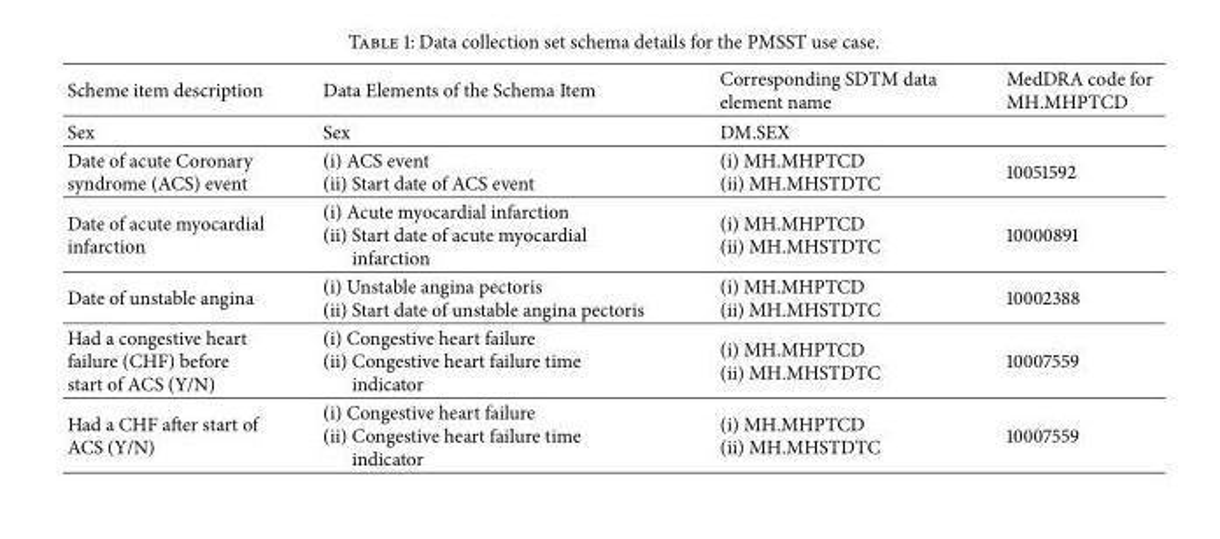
<table><tbody><tr><td>Scheme item description</td><td>Data Elements of the Schema Item</td><td>Corresponding SDTM data element name</td><td>MedDRA code for MH.MHPTCD</td></tr><tr><td>Sex</td><td>Sex</td><td>DM.SEX</td><td></td></tr><tr><td>Date of acute Coronary syndrome (ACS) event</td><td>(i) ACS event (ii) Start date of ACS event</td><td>(i) MH.MHPTCD (ii) MH.MHSTDTC</td><td>10051592</td></tr><tr><td>Date of acute myocardial infarction</td><td>(i) Acute myocardial infarction (ii) Start date of acute myocardial infarction</td><td>(i) MH.MHPTCD (ii) MH.MHSTDTC</td><td>10000891</td></tr><tr><td>Date of unstable angina</td><td>(i) Unstable angina pectoris (ii) Start date of unstable angina pectoris</td><td>(i) MH.MHPTCD (ii) MH.MHSTDTC</td><td>10002388</td></tr><tr><td>Had a congestive heart failure (CHF) before start of ACS (Y/N)</td><td>(i) Congestive heart failure (ii) Congestive heart failure time indicator</td><td>(i) MH.MHPTCD (ii) MH.MHSTDTC</td><td>10007559</td></tr><tr><td>Had a CHF after start of ACS (Y/N)</td><td>(i) Congestive heart failure (ii) Congestive heart failure time indicator</td><td>(i) MH.MHPTCD (ii) MH.MHSTDTC</td><td>10007559</td></tr></tbody></table>